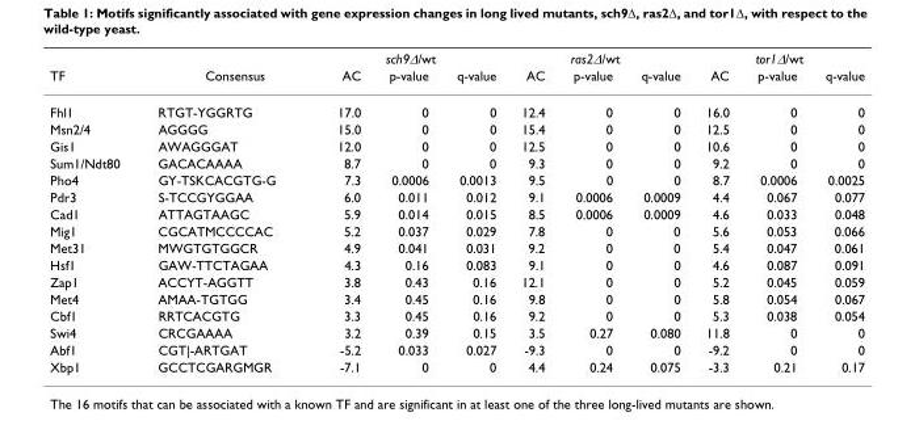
<table><thead><tr><td rowspan="2">TF</td><td rowspan="2">Consensus</td><td colspan="3">sch9∆/wt</td><td colspan="3">ras2∆/wt</td><td colspan="3">tor1∆/wt</td></tr><tr><td>AC</td><td>p-value</td><td>q-value</td><td>AC</td><td>p-value</td><td>q-value</td><td>AC</td><td>p-value</td><td>q-value</td></tr></thead><tbody><tr><td>Fhl1</td><td>RTGT-YGGRTG</td><td>17.0</td><td>0</td><td>0</td><td>12.4</td><td>0</td><td>0</td><td>16.0</td><td>0</td><td>0</td></tr><tr><td>Msn2/4</td><td>AGGGG</td><td>15.0</td><td>0</td><td>0</td><td>15.4</td><td>0</td><td>0</td><td>12.5</td><td>0</td><td>0</td></tr><tr><td>Gis1</td><td>AWAGGGAT</td><td>12.0</td><td>0</td><td>0</td><td>12.5</td><td>0</td><td>0</td><td>10.6</td><td>0</td><td>0</td></tr><tr><td>Sum1/Ndt80</td><td>GACACAAAA</td><td>8.7</td><td>0</td><td>0</td><td>9.3</td><td>0</td><td>0</td><td>9.2</td><td>0</td><td>0</td></tr><tr><td>Pho4</td><td>GY-TSKCACGTG-G</td><td>7.3</td><td>0.0006</td><td>0.0013</td><td>9.5</td><td>0</td><td>0</td><td>8.7</td><td>0.0006</td><td>0.0025</td></tr><tr><td>Pdr3</td><td>S-TCCGYGGAA</td><td>6.0</td><td>0.011</td><td>0.012</td><td>9.1</td><td>0.0006</td><td>0.0009</td><td>4.4</td><td>0.067</td><td>0.077</td></tr><tr><td>Cad1</td><td>ATTAGTAAGC</td><td>5.9</td><td>0.014</td><td>0.015</td><td>8.5</td><td>0.0006</td><td>0.0009</td><td>4.6</td><td>0.033</td><td>0.048</td></tr><tr><td>Mig1</td><td>CGCATMCCCCAC</td><td>5.2</td><td>0.037</td><td>0.029</td><td>7.8</td><td>0</td><td>0</td><td>5.6</td><td>0.053</td><td>0.066</td></tr><tr><td>Met31</td><td>MWGTGTGGCR</td><td>4.9</td><td>0.041</td><td>0.031</td><td>9.2</td><td>0</td><td>0</td><td>5.4</td><td>0.047</td><td>0.061</td></tr><tr><td>Hsf1</td><td>GAW-TTCTAGAA</td><td>4.3</td><td>0.16</td><td>0.083</td><td>9.1</td><td>0</td><td>0</td><td>4.6</td><td>0.087</td><td>0.091</td></tr><tr><td>Zap1</td><td>ACCYT-AGGTT</td><td>3.8</td><td>0.43</td><td>0.16</td><td>12.1</td><td>0</td><td>0</td><td>5.2</td><td>0.045</td><td>0.059</td></tr><tr><td>Met4</td><td>AMAA-TGTGG</td><td>3.4</td><td>0.45</td><td>0.16</td><td>9.8</td><td>0</td><td>0</td><td>5.8</td><td>0.054</td><td>0.067</td></tr><tr><td>Cbf1</td><td>RRTCACGTG</td><td>3.3</td><td>0.45</td><td>0.16</td><td>9.2</td><td>0</td><td>0</td><td>5.3</td><td>0.038</td><td>0.054</td></tr><tr><td>Swi4</td><td>CRCGAAAA</td><td>3.2</td><td>0.39</td><td>0.15</td><td>3.5</td><td>0.27</td><td>0.080</td><td>11.8</td><td>0</td><td>0</td></tr><tr><td>Abf1</td><td>CGT|-ARTGAT</td><td>-5.2</td><td>0.033</td><td>0.027</td><td>-9.3</td><td>0</td><td>0</td><td>-9.2</td><td>0</td><td>0</td></tr><tr><td>Xbp1</td><td>GCCTCGARGMGR</td><td>-7.1</td><td>0</td><td>0</td><td>4.4</td><td>0.24</td><td>0.075</td><td>-3.3</td><td>0.21</td><td>0.17</td></tr></tbody></table>